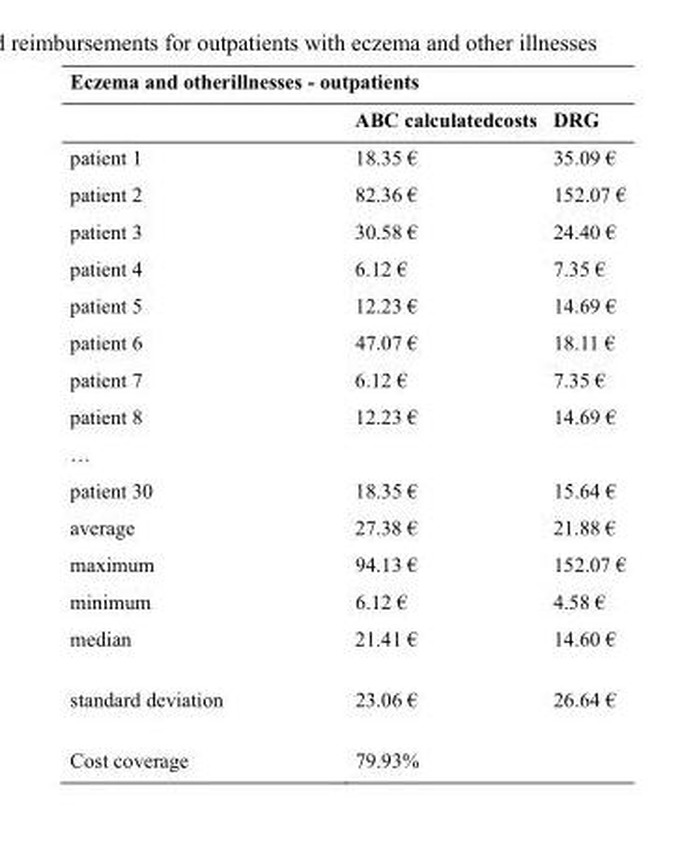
<table><thead><tr><td colspan="3">Eczema and otherillnesses - outpatients</td></tr><tr><td></td><td>ABC calculatedcosts</td><td>DRG</td></tr></thead><tbody><tr><td>patient 1</td><td>18.35 €</td><td>35.09 €</td></tr><tr><td>patient 2</td><td>82.36 €</td><td>152.07 €</td></tr><tr><td>patient 3</td><td>30.58 €</td><td>24.40 €</td></tr><tr><td>patient 4</td><td>6.12 €</td><td>7.35 €</td></tr><tr><td>patient 5</td><td>12.23 €</td><td>14.69 €</td></tr><tr><td>patient 6</td><td>47.07 €</td><td>18.11 €</td></tr><tr><td>patient 7</td><td>6.12 €</td><td>7.35 €</td></tr><tr><td>patient 8</td><td>12.23 €</td><td>14.69 €</td></tr><tr><td colspan="3">…</td></tr><tr><td>patient 30</td><td>18.35 €</td><td>15.64 €</td></tr><tr><td>average</td><td>27.38 €</td><td>21.88 €</td></tr><tr><td>maximum</td><td>94.13 €</td><td>152.07 €</td></tr><tr><td>minimum</td><td>6.12 €</td><td>4.58 €</td></tr><tr><td>median</td><td>21.41 €</td><td>14.60 €</td></tr><tr><td>standard deviation</td><td>23.06 €</td><td>26.64 €</td></tr><tr><td>Cost coverage</td><td colspan="2">79.93%</td></tr></tbody></table>